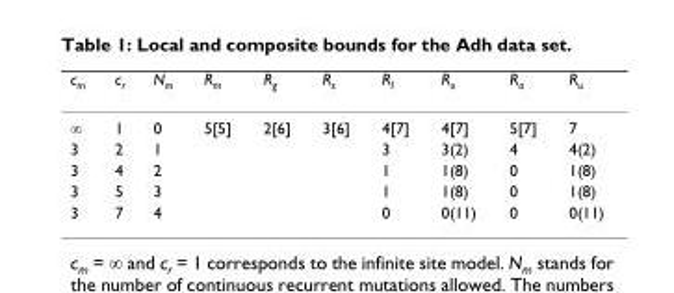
<table><thead><tr><td>c<sub>m</sub></td><td>c<sub>r</sub></td><td>N<sub>m</sub></td><td>R<sub>m</sub></td><td>R<sub>g</sub></td><td>R<sub>s</sub></td><td>R<sub>I</sub></td><td>R<sub>o</sub></td><td>R<sub>a</sub></td><td>R<sub>u</sub></td></tr></thead><tbody><tr><td>∞</td><td>1</td><td>0</td><td>5[5]</td><td>2[6]</td><td>3[6]</td><td>4[7]</td><td>4[7]</td><td>5[7]</td><td>7</td></tr><tr><td>3</td><td>2</td><td>1</td><td></td><td></td><td></td><td>3</td><td>3(2)</td><td>4</td><td>4(2)</td></tr><tr><td>3</td><td>4</td><td>2</td><td></td><td></td><td></td><td>1</td><td>1(8)</td><td>0</td><td>1(8)</td></tr><tr><td>3</td><td>5</td><td>3</td><td></td><td></td><td></td><td>1</td><td>1(8)</td><td>0</td><td>1(8)</td></tr><tr><td>3</td><td>7</td><td>4</td><td></td><td></td><td></td><td>0</td><td>0(11)</td><td>0</td><td>0(11)</td></tr></tbody></table>